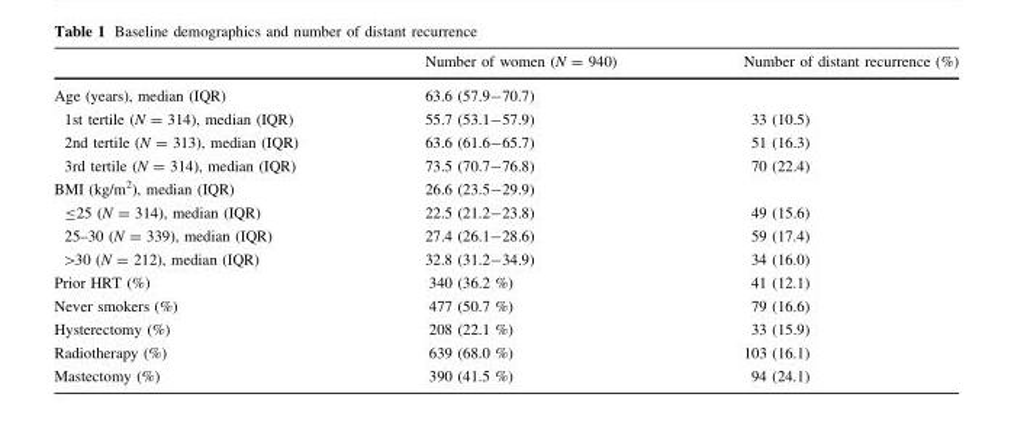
<table><thead><tr><td></td><td>Number of women (N = 940)</td><td>Number of distant recurrence (%)</td></tr></thead><tbody><tr><td>Age (years), median (IQR)</td><td>63.6 (57.9-70.7)</td><td></td></tr><tr><td>1st tertile (N = 314), median (IQR)</td><td>55.7 (53.1-57.9)</td><td>33 (10.5)</td></tr><tr><td>2nd tertile (N = 313), median (IQR)</td><td>63.6 (61.6-65.7)</td><td>51 (16.3)</td></tr><tr><td>3rd tertile (N = 314), median (IQR)</td><td>73.5 (70.7-76.8)</td><td>70 (22.4)</td></tr><tr><td>BMI (kg/m<sup>2</sup>), median (IQR)</td><td>26.6 (23.5-29.9)</td><td></td></tr><tr><td>≤25 (N = 314), median (IQR)</td><td>22.5 (21.2-23.8)</td><td>49 (15.6)</td></tr><tr><td>25–30 (N = 339), median (IQR)</td><td>27.4 (26.1-28.6)</td><td>59 (17.4)</td></tr><tr><td>&gt;30 (N = 212), median (IQR)</td><td>32.8 (31.2-34.9)</td><td>34 (16.0)</td></tr><tr><td>Prior HRT (%)</td><td>340 (36.2 %)</td><td>41 (12.1)</td></tr><tr><td>Never smokers (%)</td><td>477 (50.7 %)</td><td>79 (16.6)</td></tr><tr><td>Hysterectomy (%)</td><td>208 (22.1 %)</td><td>33 (15.9)</td></tr><tr><td>Radiotherapy (%)</td><td>639 (68.0 %)</td><td>103 (16.1)</td></tr><tr><td>Mastectomy (%)</td><td>390 (41.5 %)</td><td>94 (24.1)</td></tr></tbody></table>